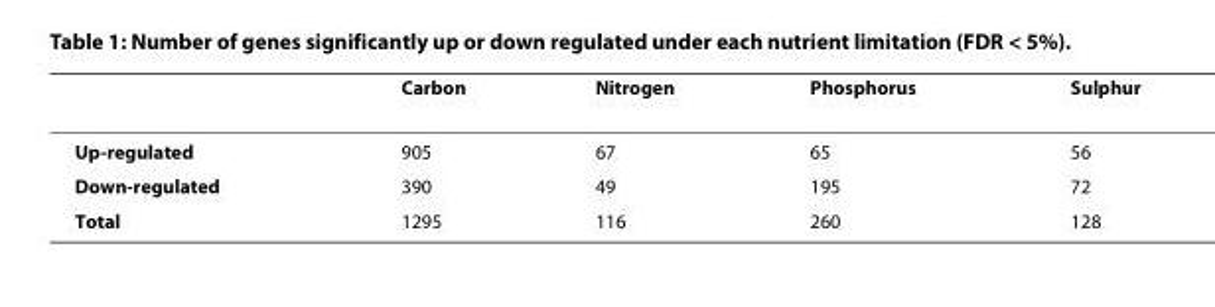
<table><thead><tr><td></td><td>Carbon</td><td>Nitrogen</td><td>Phosphorus</td><td>Sulphur</td></tr></thead><tbody><tr><td>Up-regulated</td><td>905</td><td>67</td><td>65</td><td>56</td></tr><tr><td>Down-regulated</td><td>390</td><td>49</td><td>195</td><td>72</td></tr><tr><td>Total</td><td>1295</td><td>116</td><td>260</td><td>128</td></tr></tbody></table>